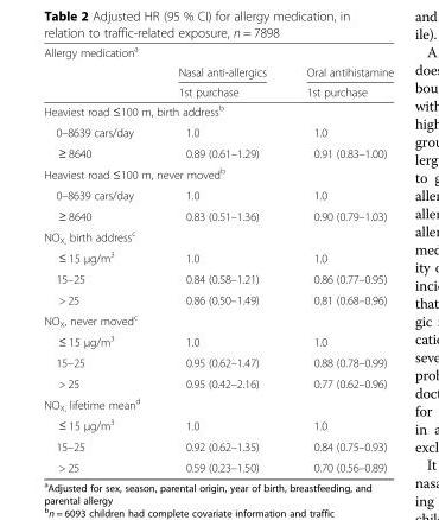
<table><thead><tr><td rowspan="3">Allergy medication<sup>a</sup></td><td rowspan="3">Nasal anti-allergics 1st purchase</td><td rowspan="3">Oral antihistamine 1st purchase</td></tr><tr></tr><tr></tr></thead><tbody><tr><td colspan="3">Heaviest road ≤100 m, birth address<sup>b</sup></td></tr><tr><td>0–8639 cars/day</td><td>1.0</td><td>1.0</td></tr><tr><td>≥ 8640</td><td>0.89 (0.61–1.29)</td><td>0.91 (0.83–1.00)</td></tr><tr><td colspan="3">Heaviest road ≤100 m, never moved<sup>b</sup></td></tr><tr><td>0–8639 cars/day</td><td>1.0</td><td>1.0</td></tr><tr><td>≥ 8640</td><td>0.83 (0.51–1.36)</td><td>0.90 (0.79–1.03)</td></tr><tr><td colspan="3">NO<sub>X,</sub> birth address<sup>c</sup></td></tr><tr><td>≤ 15 μg/m<sup>3</sup></td><td>1.0</td><td>1.0</td></tr><tr><td>15–25</td><td>0.84 (0.58–1.21)</td><td>0.86 (0.77–0.95)</td></tr><tr><td>&gt; 25</td><td>0.86 (0.50–1.49)</td><td>0.81 (0.68–0.96)</td></tr><tr><td colspan="3">NO<sub>X</sub>, never moved<sup>c</sup></td></tr><tr><td>≤ 15 μg/m<sup>3</sup></td><td>1.0</td><td>1.0</td></tr><tr><td>15–25</td><td>0.95 (0.62–1.47)</td><td>0.88 (0.78–0.99)</td></tr><tr><td>&gt; 25</td><td>0.95 (0.42–2.16)</td><td>0.77 (0.62–0.96)</td></tr><tr><td colspan="3">NO<sub>X,</sub> lifetime mean<sup>d</sup></td></tr><tr><td>≤ 15 μg/m<sup>3</sup></td><td>1.0</td><td>1.0</td></tr><tr><td>15–25</td><td>0.92 (0.62–1.35)</td><td>0.84 (0.75–0.93)</td></tr><tr><td>&gt; 25</td><td>0.59 (0.23–1.50)</td><td>0.70 (0.56–0.89)</td></tr></tbody></table>